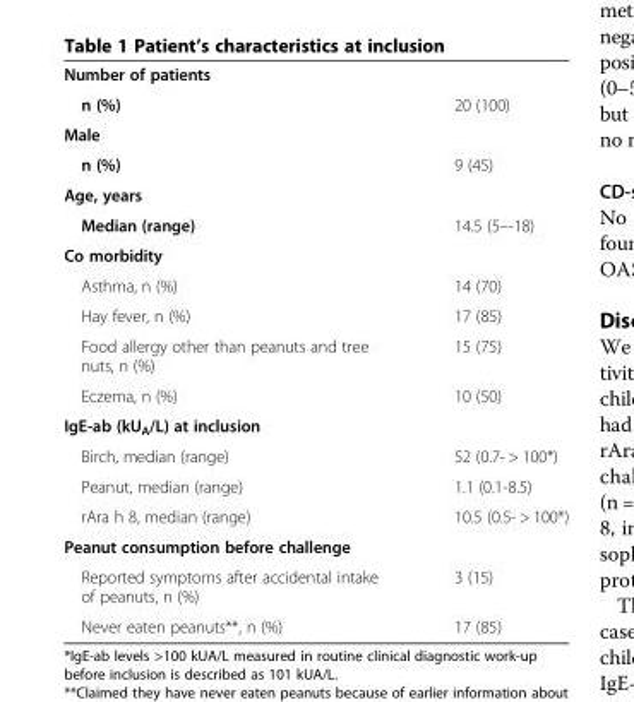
<table><tbody><tr><td colspan="2">Number of patients</td></tr><tr><td>n (%)</td><td>20 (100)</td></tr><tr><td colspan="2">Male</td></tr><tr><td>n (%)</td><td>9 (45)</td></tr><tr><td colspan="2">Age, years</td></tr><tr><td>Median (range)</td><td>14.5 (5–-18)</td></tr><tr><td colspan="2">Co morbidity</td></tr><tr><td>Asthma, n (%)</td><td>14 (70)</td></tr><tr><td>Hay fever, n (%)</td><td>17 (85)</td></tr><tr><td>Food allergy other than peanuts and tree nuts, n (%)</td><td>15 (75)</td></tr><tr><td>Eczema, n (%)</td><td>10 (50)</td></tr><tr><td colspan="2">IgE-ab (kU<sub>A</sub>/L) at inclusion</td></tr><tr><td>Birch, median (range)</td><td>52 (0.7- &gt; 100*)</td></tr><tr><td>Peanut, median (range)</td><td>1.1 (0.1-8.5)</td></tr><tr><td>rAra h 8, median (range)</td><td>10.5 (0.5- &gt; 100*)</td></tr><tr><td colspan="2">Peanut consumption before challenge</td></tr><tr><td>Reported symptoms after accidental intake of peanuts, n (%)</td><td>3 (15)</td></tr><tr><td>Never eaten peanuts**, n (%)</td><td>17 (85)</td></tr></tbody></table>